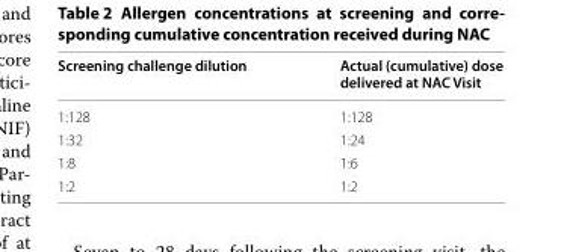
<table><thead><tr><td>Screening challenge dilution</td><td>Actual (cumulative) dose delivered at NAC Visit</td></tr></thead><tbody><tr><td>1:128</td><td>1:128</td></tr><tr><td>1:32</td><td>1:24</td></tr><tr><td>1:8</td><td>1:6</td></tr><tr><td>1:2</td><td>1:2</td></tr></tbody></table>